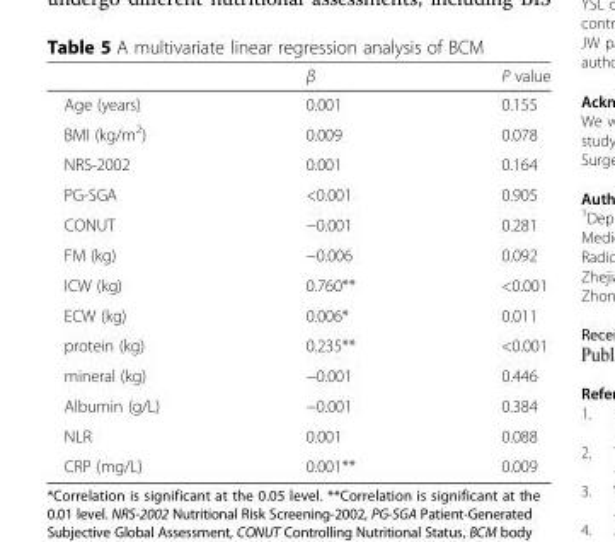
<table><thead><tr><td></td><td>β</td><td>P value</td></tr></thead><tbody><tr><td>Age (years)</td><td>0.001</td><td>0.155</td></tr><tr><td>BMI (kg/m<sup>2</sup>)</td><td>0.009</td><td>0.078</td></tr><tr><td>NRS-2002</td><td>0.001</td><td>0.164</td></tr><tr><td>PG-SGA</td><td>&lt;0.001</td><td>0.905</td></tr><tr><td>CONUT</td><td>−0.001</td><td>0.281</td></tr><tr><td>FM (kg)</td><td>−0.006</td><td>0.092</td></tr><tr><td>ICW (kg)</td><td>0.760**</td><td>&lt;0.001</td></tr><tr><td>ECW (kg)</td><td>0.006*</td><td>0.011</td></tr><tr><td>protein (kg)</td><td>0.235**</td><td>&lt;0.001</td></tr><tr><td>mineral (kg)</td><td>−0.001</td><td>0.446</td></tr><tr><td>Albumin (g/L)</td><td>−0.001</td><td>0.384</td></tr><tr><td>NLR</td><td>0.001</td><td>0.088</td></tr><tr><td>CRP (mg/L)</td><td>0.001**</td><td>0.009</td></tr></tbody></table>